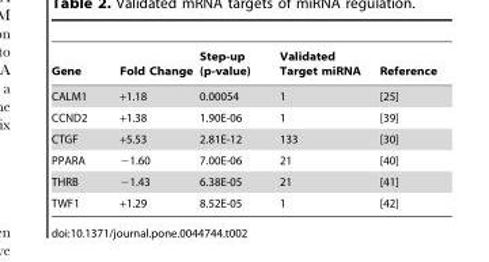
<table><thead><tr><td>Gene</td><td>Fold Change</td><td>Step-up (p-value)</td><td>Validated Target miRNA</td><td>Reference</td></tr></thead><tbody><tr><td>CALM1</td><td>+1.18</td><td>0.00054</td><td>1</td><td>[25]</td></tr><tr><td>CCND2</td><td>+1.38</td><td>1.90E-06</td><td>1</td><td>[39]</td></tr><tr><td>CTGF</td><td>+5.53</td><td>2.81E-12</td><td>133</td><td>[30]</td></tr><tr><td>PPARA</td><td>−1.60</td><td>7.00E-06</td><td>21</td><td>[40]</td></tr><tr><td>THRB</td><td>−1.43</td><td>6.38E-05</td><td>21</td><td>[41]</td></tr><tr><td>TWF1</td><td>+1.29</td><td>8.52E-05</td><td>1</td><td>[42]</td></tr></tbody></table>